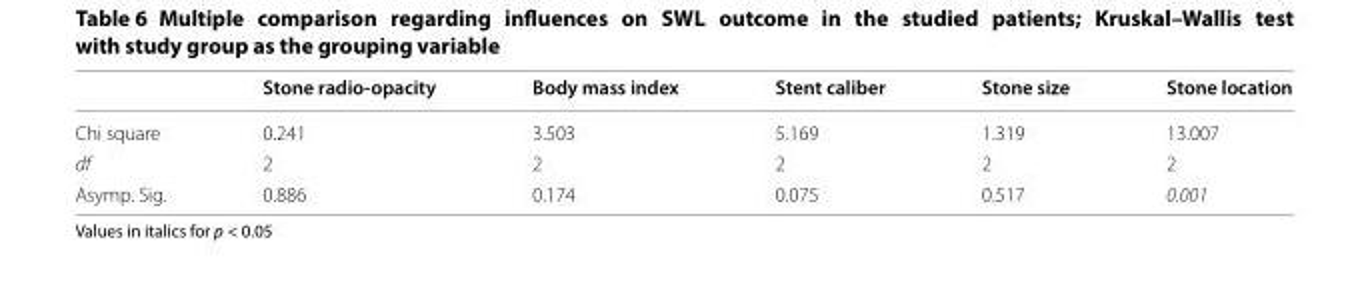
<table><thead><tr><td></td><td>Stone radio-opacity</td><td>Body mass index</td><td>Stent caliber</td><td>Stone size</td><td>Stone location</td></tr></thead><tbody><tr><td>Chi square</td><td>0.241</td><td>3.503</td><td>5.169</td><td>1.319</td><td>13.007</td></tr><tr><td>df</td><td>2</td><td>2</td><td>2</td><td>2</td><td>2</td></tr><tr><td>Asymp. Sig.</td><td>0.886</td><td>0.174</td><td>0.075</td><td>0.517</td><td>0.001</td></tr></tbody></table>